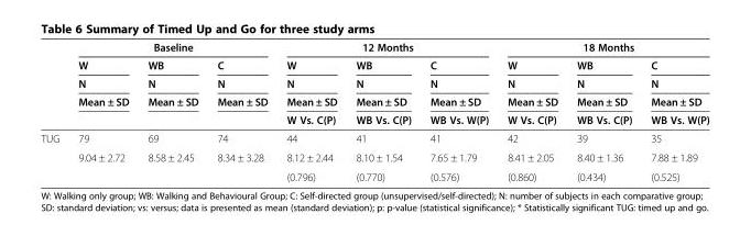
<table><thead><tr><td rowspan="5"></td><td colspan="3">Baseline</td><td colspan="3">12 Months</td><td colspan="3">18 Months</td></tr><tr><td rowspan="4">W N Mean ± SD</td><td rowspan="4">WB N Mean ± SD</td><td rowspan="4">C N Mean ± SD</td><td rowspan="4">W N Mean ± SD W Vs. C(P)</td><td rowspan="4">WB N Mean ± SD WB Vs. C(P)</td><td rowspan="4">C N Mean ± SD WB Vs. W(P)</td><td rowspan="4">W N Mean ± SD W Vs. C(P)</td><td rowspan="4">WB N Mean ± SD WB Vs. C(P)</td><td rowspan="4">C N Mean ± SD WB Vs. W(P)</td></tr><tr></tr><tr></tr><tr></tr></thead><tbody><tr><td rowspan="3">TUG</td><td>79</td><td>69</td><td>74</td><td>44</td><td>41</td><td>41</td><td>42</td><td>39</td><td>35</td></tr><tr><td>9.04 ± 2.72</td><td>8.58 ± 2.45</td><td>8.34 ± 3.28</td><td>8.12 ± 2.44</td><td>8.10 ± 1.54</td><td>7.65 ± 1.79</td><td>8.41 ± 2.05</td><td>8.40 ± 1.36</td><td>7.88 ± 1.89</td></tr><tr><td></td><td></td><td></td><td>(0.796)</td><td>(0.770)</td><td>(0.576)</td><td>(0.860)</td><td>(0.434)</td><td>(0.525)</td></tr></tbody></table>